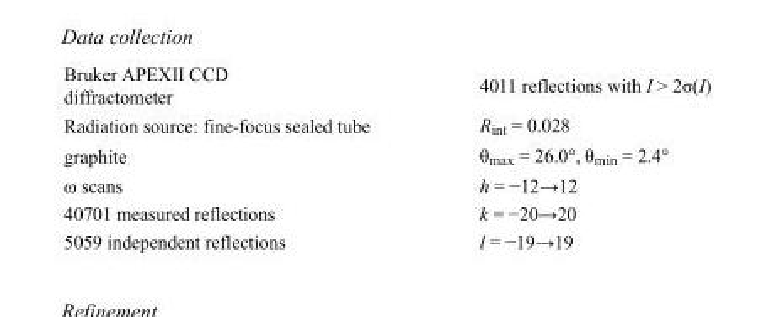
<table><tbody><tr><td>Bruker APEXII CCD diffractometer</td><td>4011 reflections with I &gt; 2σ(I)</td></tr><tr><td>Radiation source: fine-focus sealed tube</td><td>R<sub>int</sub> = 0.028</td></tr><tr><td>graphite</td><td>θ<sub>max</sub> = 26.0°, θ<sub>min</sub> = 2.4°</td></tr><tr><td>ω scans</td><td>h = −12→12</td></tr><tr><td>40701 measured reflections</td><td>k = −20→20</td></tr><tr><td>5059 independent reflections</td><td>l = −19→19</td></tr></tbody></table>